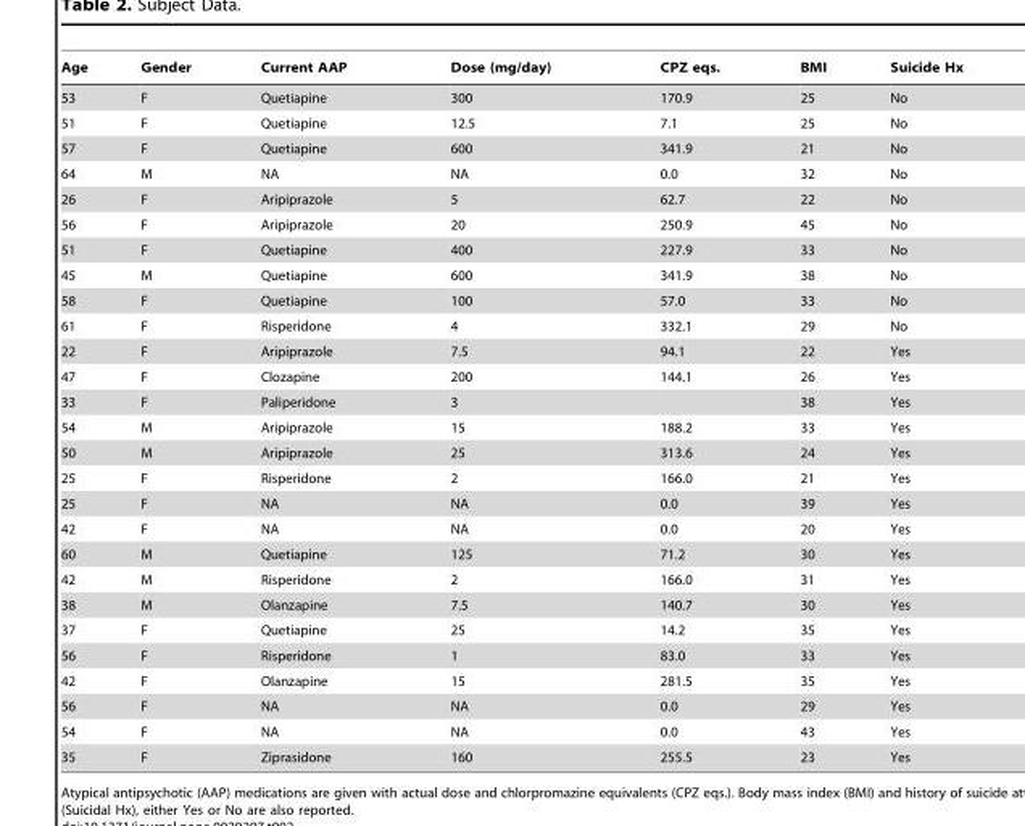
<table><thead><tr><td>Age</td><td>Gender</td><td>Current AAP</td><td>Dose (mg/day)</td><td>CPZ eqs.</td><td>BMI</td><td>Suicide Hx</td></tr></thead><tbody><tr><td>53</td><td>F</td><td>Quetiapine</td><td>300</td><td>170.9</td><td>25</td><td>No</td></tr><tr><td>51</td><td>F</td><td>Quetiapine</td><td>12.5</td><td>7.1</td><td>25</td><td>No</td></tr><tr><td>57</td><td>F</td><td>Quetiapine</td><td>600</td><td>341.9</td><td>21</td><td>No</td></tr><tr><td>64</td><td>M</td><td>NA</td><td>NA</td><td>0.0</td><td>32</td><td>No</td></tr><tr><td>26</td><td>F</td><td>Aripiprazole</td><td>5</td><td>62.7</td><td>22</td><td>No</td></tr><tr><td>56</td><td>F</td><td>Aripiprazole</td><td>20</td><td>250.9</td><td>45</td><td>No</td></tr><tr><td>51</td><td>F</td><td>Quetiapine</td><td>400</td><td>227.9</td><td>33</td><td>No</td></tr><tr><td>45</td><td>M</td><td>Quetiapine</td><td>600</td><td>341.9</td><td>38</td><td>No</td></tr><tr><td>58</td><td>F</td><td>Quetiapine</td><td>100</td><td>57.0</td><td>33</td><td>No</td></tr><tr><td>61</td><td>F</td><td>Risperidone</td><td>4</td><td>332.1</td><td>29</td><td>No</td></tr><tr><td>22</td><td>F</td><td>Aripiprazole</td><td>7.5</td><td>94.1</td><td>22</td><td>Yes</td></tr><tr><td>47</td><td>F</td><td>Clozapine</td><td>200</td><td>144.1</td><td>26</td><td>Yes</td></tr><tr><td>33</td><td>F</td><td>Paliperidone</td><td>3</td><td></td><td>38</td><td>Yes</td></tr><tr><td>54</td><td>M</td><td>Aripiprazole</td><td>15</td><td>188.2</td><td>33</td><td>Yes</td></tr><tr><td>50</td><td>M</td><td>Aripiprazole</td><td>25</td><td>313.6</td><td>24</td><td>Yes</td></tr><tr><td>25</td><td>F</td><td>Risperidone</td><td>2</td><td>166.0</td><td>21</td><td>Yes</td></tr><tr><td>25</td><td>F</td><td>NA</td><td>NA</td><td>0.0</td><td>39</td><td>Yes</td></tr><tr><td>42</td><td>F</td><td>NA</td><td>NA</td><td>0.0</td><td>20</td><td>Yes</td></tr><tr><td>60</td><td>M</td><td>Quetiapine</td><td>125</td><td>71.2</td><td>30</td><td>Yes</td></tr><tr><td>42</td><td>M</td><td>Risperidone</td><td>2</td><td>166.0</td><td>31</td><td>Yes</td></tr><tr><td>38</td><td>M</td><td>Olanzapine</td><td>7.5</td><td>140.7</td><td>30</td><td>Yes</td></tr><tr><td>37</td><td>F</td><td>Quetiapine</td><td>25</td><td>14.2</td><td>35</td><td>Yes</td></tr><tr><td>56</td><td>F</td><td>Risperidone</td><td>1</td><td>83.0</td><td>33</td><td>Yes</td></tr><tr><td>42</td><td>F</td><td>Olanzapine</td><td>15</td><td>281.5</td><td>35</td><td>Yes</td></tr><tr><td>56</td><td>F</td><td>NA</td><td>NA</td><td>0.0</td><td>29</td><td>Yes</td></tr><tr><td>54</td><td>F</td><td>NA</td><td>NA</td><td>0.0</td><td>43</td><td>Yes</td></tr><tr><td>35</td><td>F</td><td>Ziprasidone</td><td>160</td><td>255.5</td><td>23</td><td>Yes</td></tr></tbody></table>